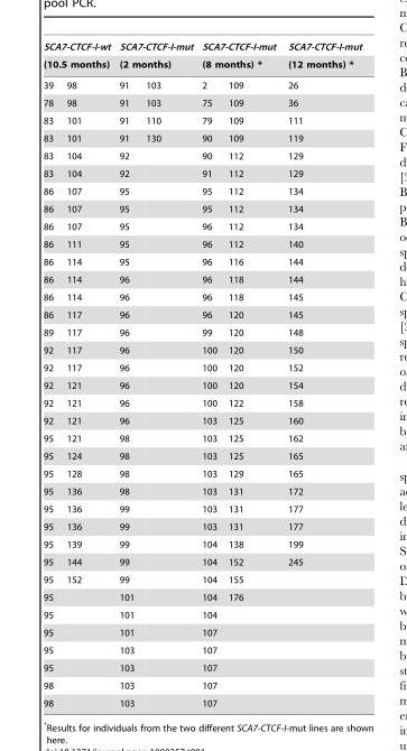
<table><thead><tr><td rowspan="2" colspan="2">SCA7-CTCF-I-wt (10.5 months)</td><td rowspan="2" colspan="2">SCA7-CTCF-I-mut (2 months)</td><td rowspan="2" colspan="2">SCA7-CTCF-I-mut (8 months) *</td><td rowspan="3">SCA7-CTCF-I-mut (12 months) * 26</td></tr><tr></tr><tr><td>39</td><td>98</td><td>91</td><td>103</td><td>2</td><td>109</td></tr></thead><tbody><tr><td>78</td><td>98</td><td>91</td><td>103</td><td>75</td><td>109</td><td>36</td></tr><tr><td>83</td><td>101</td><td>91</td><td>110</td><td>79</td><td>109</td><td>111</td></tr><tr><td>83</td><td>101</td><td>91</td><td>130</td><td>90</td><td>109</td><td>119</td></tr><tr><td>83</td><td>104</td><td>92</td><td></td><td>90</td><td>112</td><td>129</td></tr><tr><td>83</td><td>104</td><td>92</td><td></td><td>91</td><td>112</td><td>129</td></tr><tr><td>86</td><td>107</td><td>95</td><td></td><td>95</td><td>112</td><td>134</td></tr><tr><td>86</td><td>107</td><td>95</td><td></td><td>95</td><td>112</td><td>134</td></tr><tr><td>86</td><td>107</td><td>95</td><td></td><td>96</td><td>112</td><td>134</td></tr><tr><td>86</td><td>111</td><td>95</td><td></td><td>96</td><td>112</td><td>140</td></tr><tr><td>86</td><td>114</td><td>95</td><td></td><td>96</td><td>116</td><td>144</td></tr><tr><td>86</td><td>114</td><td>96</td><td></td><td>96</td><td>118</td><td>144</td></tr><tr><td>86</td><td>114</td><td>96</td><td></td><td>96</td><td>118</td><td>145</td></tr><tr><td>86</td><td>117</td><td>96</td><td></td><td>96</td><td>120</td><td>145</td></tr><tr><td>89</td><td>117</td><td>96</td><td></td><td>99</td><td>120</td><td>148</td></tr><tr><td>92</td><td>117</td><td>96</td><td></td><td>100</td><td>120</td><td>150</td></tr><tr><td>92</td><td>117</td><td>96</td><td></td><td>100</td><td>120</td><td>152</td></tr><tr><td>92</td><td>121</td><td>96</td><td></td><td>100</td><td>120</td><td>154</td></tr><tr><td>92</td><td>121</td><td>96</td><td></td><td>100</td><td>122</td><td>158</td></tr><tr><td>92</td><td>121</td><td>96</td><td></td><td>103</td><td>125</td><td>160</td></tr><tr><td>95</td><td>121</td><td>98</td><td></td><td>103</td><td>125</td><td>162</td></tr><tr><td>95</td><td>124</td><td>98</td><td></td><td>103</td><td>125</td><td>165</td></tr><tr><td>95</td><td>128</td><td>98</td><td></td><td>103</td><td>129</td><td>165</td></tr><tr><td>95</td><td>136</td><td>98</td><td></td><td>103</td><td>131</td><td>172</td></tr><tr><td>95</td><td>136</td><td>99</td><td></td><td>103</td><td>131</td><td>177</td></tr><tr><td>95</td><td>136</td><td>99</td><td></td><td>103</td><td>131</td><td>177</td></tr><tr><td>95</td><td>139</td><td>99</td><td></td><td>104</td><td>138</td><td>199</td></tr><tr><td>95</td><td>144</td><td>99</td><td></td><td>104</td><td>152</td><td>245</td></tr><tr><td>95</td><td>152</td><td>99</td><td></td><td>104</td><td>155</td><td></td></tr><tr><td>95</td><td></td><td>101</td><td></td><td>104</td><td>176</td><td></td></tr><tr><td>95</td><td></td><td>101</td><td></td><td>104</td><td></td><td></td></tr><tr><td>95</td><td></td><td>101</td><td></td><td>107</td><td></td><td></td></tr><tr><td>95</td><td></td><td>103</td><td></td><td>107</td><td></td><td></td></tr><tr><td>95</td><td></td><td>103</td><td></td><td>107</td><td></td><td></td></tr><tr><td>98</td><td></td><td>103</td><td></td><td>107</td><td></td><td></td></tr><tr><td>98</td><td></td><td>103</td><td></td><td>107</td><td></td><td></td></tr></tbody></table>